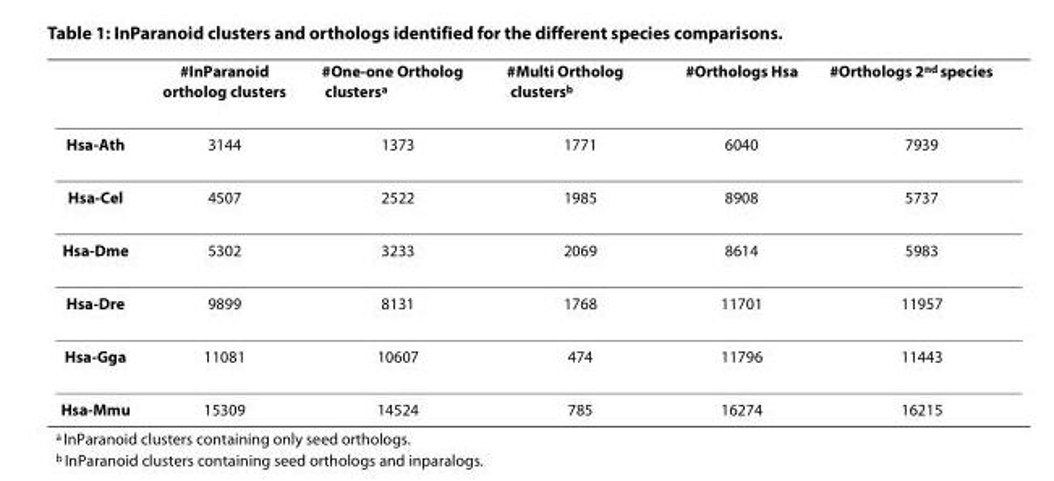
<table><thead><tr><td></td><td>#InParanoid ortholog clusters</td><td>#One-one Ortholog clusters<sup>a</sup></td><td>#Multi Ortholog clusters<sup>b</sup></td><td>#Orthologs Hsa</td><td>#Orthologs 2<sup>nd</sup> species</td></tr></thead><tbody><tr><td>Hsa-Ath</td><td>3144</td><td>1373</td><td>1771</td><td>6040</td><td>7939</td></tr><tr><td>Hsa-Cel</td><td>4507</td><td>2522</td><td>1985</td><td>8908</td><td>5737</td></tr><tr><td>Hsa-Dme</td><td>5302</td><td>3233</td><td>2069</td><td>8614</td><td>5983</td></tr><tr><td>Hsa-Dre</td><td>9899</td><td>8131</td><td>1768</td><td>11701</td><td>11957</td></tr><tr><td>Hsa-Gga</td><td>11081</td><td>10607</td><td>474</td><td>11796</td><td>11443</td></tr><tr><td>Hsa-Mmu</td><td>15309</td><td>14524</td><td>785</td><td>16274</td><td>16215</td></tr></tbody></table>